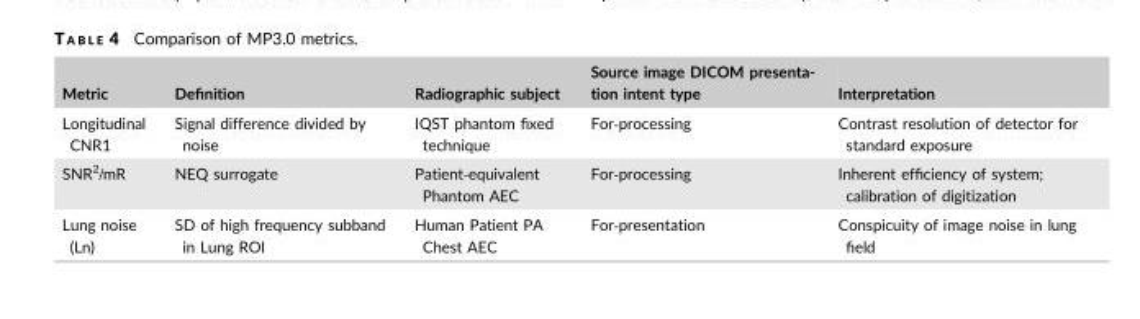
<table><thead><tr><td>Metric</td><td>Definition</td><td>Radiographic subject</td><td>Source image DICOM presenta- tion intent type</td><td>Interpretation</td></tr></thead><tbody><tr><td>Longitudinal CNR1</td><td>Signal difference divided by noise</td><td>IQST phantom fixed technique</td><td>For‐processing</td><td>Contrast resolution of detector for standard exposure</td></tr><tr><td>SNR<sup>2</sup>/mR</td><td>NEQ surrogate</td><td>Patient‐equivalent Phantom AEC</td><td>For‐processing</td><td>Inherent efficiency of system; calibration of digitization</td></tr><tr><td>Lung noise (Ln)</td><td>SD of high frequency subband in Lung ROI</td><td>Human Patient PA Chest AEC</td><td>For‐presentation</td><td>Conspicuity of image noise in lung field</td></tr></tbody></table>